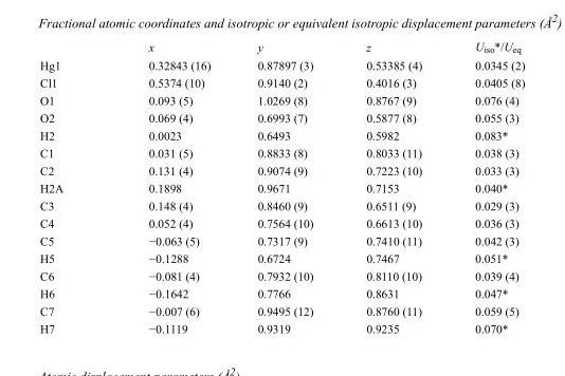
<table><thead><tr><td></td><td>x</td><td>y</td><td>z</td><td>U<sub>iso</sub>*/U<sub>eq</sub></td></tr></thead><tbody><tr><td>Hg1</td><td>0.32843 (16)</td><td>0.87897 (3)</td><td>0.53385 (4)</td><td>0.0345 (2)</td></tr><tr><td>Cl1</td><td>0.5374 (10)</td><td>0.9140 (2)</td><td>0.4016 (3)</td><td>0.0405 (8)</td></tr><tr><td>O1</td><td>0.093 (5)</td><td>1.0269 (8)</td><td>0.8767 (9)</td><td>0.076 (4)</td></tr><tr><td>O2</td><td>0.069 (4)</td><td>0.6993 (7)</td><td>0.5877 (8)</td><td>0.055 (3)</td></tr><tr><td>H2</td><td>0.0023</td><td>0.6493</td><td>0.5982</td><td>0.083*</td></tr><tr><td>C1</td><td>0.031 (5)</td><td>0.8833 (8)</td><td>0.8033 (11)</td><td>0.038 (3)</td></tr><tr><td>C2</td><td>0.131 (4)</td><td>0.9074 (9)</td><td>0.7223 (10)</td><td>0.033 (3)</td></tr><tr><td>H2A</td><td>0.1898</td><td>0.9671</td><td>0.7153</td><td>0.040*</td></tr><tr><td>C3</td><td>0.148 (4)</td><td>0.8460 (9)</td><td>0.6511 (9)</td><td>0.029 (3)</td></tr><tr><td>C4</td><td>0.052 (4)</td><td>0.7564 (10)</td><td>0.6613 (10)</td><td>0.036 (3)</td></tr><tr><td>C5</td><td>−0.063 (5)</td><td>0.7317 (9)</td><td>0.7410 (11)</td><td>0.042 (3)</td></tr><tr><td>H5</td><td>−0.1288</td><td>0.6724</td><td>0.7467</td><td>0.051*</td></tr><tr><td>C6</td><td>−0.081 (4)</td><td>0.7932 (10)</td><td>0.8110 (10)</td><td>0.039 (4)</td></tr><tr><td>H6</td><td>−0.1642</td><td>0.7766</td><td>0.8631</td><td>0.047*</td></tr><tr><td>C7</td><td>−0.007 (6)</td><td>0.9495 (12)</td><td>0.8760 (11)</td><td>0.059 (5)</td></tr><tr><td>H7</td><td>−0.1119</td><td>0.9319</td><td>0.9235</td><td>0.070*</td></tr></tbody></table>